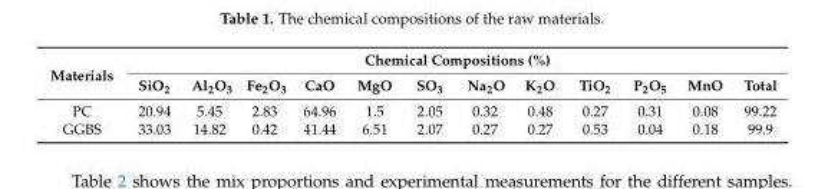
<table><thead><tr><td rowspan="2">Materials</td><td colspan="12">Chemical Compositions (%)</td></tr><tr><td>SiO<sub>2</sub></td><td>Al<sub>2</sub>O<sub>3</sub></td><td>Fe<sub>2</sub>O<sub>3</sub></td><td>CaO</td><td>MgO</td><td>SO<sub>3</sub></td><td>Na<sub>2</sub>O</td><td>K<sub>2</sub>O</td><td>TiO<sub>2</sub></td><td>P<sub>2</sub>O<sub>5</sub></td><td>MnO</td><td>Total</td></tr></thead><tbody><tr><td>PC</td><td>20.94</td><td>5.45</td><td>2.83</td><td>64.96</td><td>1.5</td><td>2.05</td><td>0.32</td><td>0.48</td><td>0.27</td><td>0.31</td><td>0.08</td><td>99.22</td></tr><tr><td>GGBS</td><td>33.03</td><td>14.82</td><td>0.42</td><td>41.44</td><td>6.51</td><td>2.07</td><td>0.27</td><td>0.27</td><td>0.53</td><td>0.04</td><td>0.18</td><td>99.9</td></tr></tbody></table>